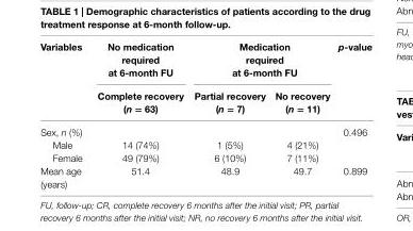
<table><thead><tr><td rowspan="2">Variables</td><td rowspan="2">no medication required at 6-month FU complete recovery (n = 63)</td><td colspan="2">Medication required at 6-month FU</td><td rowspan="2">p-value</td></tr><tr><td>Partial recovery (n = 7)</td><td>no recovery (n = 11)</td></tr></thead><tbody><tr><td>Sex, n (%)</td><td></td><td></td><td></td><td>0.496</td></tr><tr><td>Male</td><td>14 (74%)</td><td>1 (5%)</td><td>4 (21%)</td><td></td></tr><tr><td>Female</td><td>49 (79%)</td><td>6 (10%)</td><td>7 (11%)</td><td></td></tr><tr><td>Mean age (years)</td><td>51.4</td><td>48.9</td><td>49.7</td><td>0.899</td></tr></tbody></table>